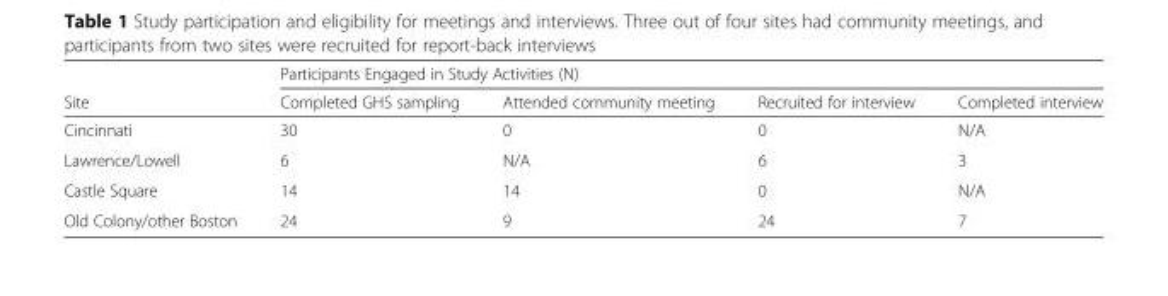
<table><thead><tr><td rowspan="2">Site</td><td colspan="4">Participants Engaged in Study Activities (N)</td></tr><tr><td>Completed GHS sampling</td><td>Attended community meeting</td><td>Recruited for interview</td><td>Completed interview</td></tr></thead><tbody><tr><td>Cincinnati</td><td>30</td><td>0</td><td>0</td><td>N/A</td></tr><tr><td>Lawrence/Lowell</td><td>6</td><td>N/A</td><td>6</td><td>3</td></tr><tr><td>Castle Square</td><td>14</td><td>14</td><td>0</td><td>N/A</td></tr><tr><td>Old Colony/other Boston</td><td>24</td><td>9</td><td>24</td><td>7</td></tr></tbody></table>